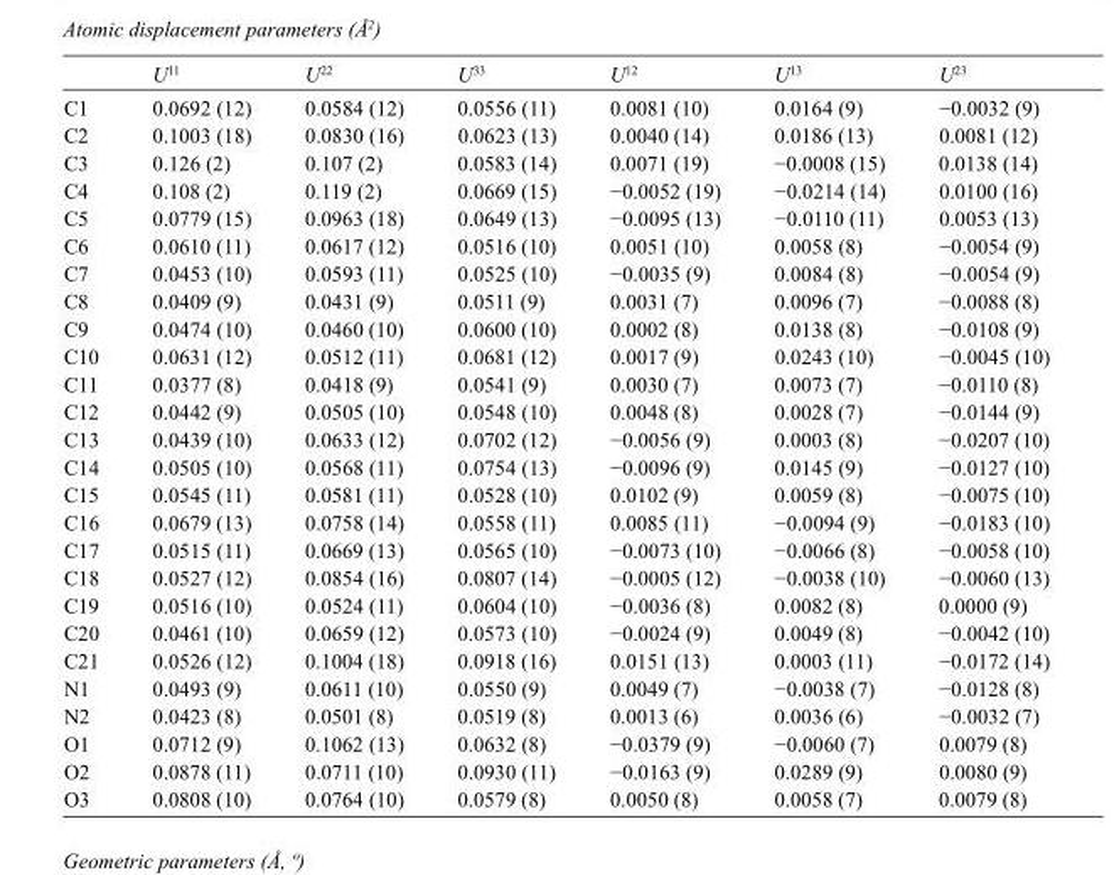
<table><thead><tr><td></td><td>U<sup>11</sup></td><td>U<sup>22</sup></td><td>U<sup>33</sup></td><td>U<sup>12</sup></td><td>U<sup>13</sup></td><td>U<sup>23</sup></td></tr></thead><tbody><tr><td>C1</td><td>0.0692 (12)</td><td>0.0584 (12)</td><td>0.0556 (11)</td><td>0.0081 (10)</td><td>0.0164 (9)</td><td>−0.0032 (9)</td></tr><tr><td>C2</td><td>0.1003 (18)</td><td>0.0830 (16)</td><td>0.0623 (13)</td><td>0.0040 (14)</td><td>0.0186 (13)</td><td>0.0081 (12)</td></tr><tr><td>C3</td><td>0.126 (2)</td><td>0.107 (2)</td><td>0.0583 (14)</td><td>0.0071 (19)</td><td>−0.0008 (15)</td><td>0.0138 (14)</td></tr><tr><td>C4</td><td>0.108 (2)</td><td>0.119 (2)</td><td>0.0669 (15)</td><td>−0.0052 (19)</td><td>−0.0214 (14)</td><td>0.0100 (16)</td></tr><tr><td>C5</td><td>0.0779 (15)</td><td>0.0963 (18)</td><td>0.0649 (13)</td><td>−0.0095 (13)</td><td>−0.0110 (11)</td><td>0.0053 (13)</td></tr><tr><td>C6</td><td>0.0610 (11)</td><td>0.0617 (12)</td><td>0.0516 (10)</td><td>0.0051 (10)</td><td>0.0058 (8)</td><td>−0.0054 (9)</td></tr><tr><td>C7</td><td>0.0453 (10)</td><td>0.0593 (11)</td><td>0.0525 (10)</td><td>−0.0035 (9)</td><td>0.0084 (8)</td><td>−0.0054 (9)</td></tr><tr><td>C8</td><td>0.0409 (9)</td><td>0.0431 (9)</td><td>0.0511 (9)</td><td>0.0031 (7)</td><td>0.0096 (7)</td><td>−0.0088 (8)</td></tr><tr><td>C9</td><td>0.0474 (10)</td><td>0.0460 (10)</td><td>0.0600 (10)</td><td>0.0002 (8)</td><td>0.0138 (8)</td><td>−0.0108 (9)</td></tr><tr><td>C10</td><td>0.0631 (12)</td><td>0.0512 (11)</td><td>0.0681 (12)</td><td>0.0017 (9)</td><td>0.0243 (10)</td><td>−0.0045 (10)</td></tr><tr><td>C11</td><td>0.0377 (8)</td><td>0.0418 (9)</td><td>0.0541 (9)</td><td>0.0030 (7)</td><td>0.0073 (7)</td><td>−0.0110 (8)</td></tr><tr><td>C12</td><td>0.0442 (9)</td><td>0.0505 (10)</td><td>0.0548 (10)</td><td>0.0048 (8)</td><td>0.0028 (7)</td><td>−0.0144 (9)</td></tr><tr><td>C13</td><td>0.0439 (10)</td><td>0.0633 (12)</td><td>0.0702 (12)</td><td>−0.0056 (9)</td><td>0.0003 (8)</td><td>−0.0207 (10)</td></tr><tr><td>C14</td><td>0.0505 (10)</td><td>0.0568 (11)</td><td>0.0754 (13)</td><td>−0.0096 (9)</td><td>0.0145 (9)</td><td>−0.0127 (10)</td></tr><tr><td>C15</td><td>0.0545 (11)</td><td>0.0581 (11)</td><td>0.0528 (10)</td><td>0.0102 (9)</td><td>0.0059 (8)</td><td>−0.0075 (10)</td></tr><tr><td>C16</td><td>0.0679 (13)</td><td>0.0758 (14)</td><td>0.0558 (11)</td><td>0.0085 (11)</td><td>−0.0094 (9)</td><td>−0.0183 (10)</td></tr><tr><td>C17</td><td>0.0515 (11)</td><td>0.0669 (13)</td><td>0.0565 (10)</td><td>−0.0073 (10)</td><td>−0.0066 (8)</td><td>−0.0058 (10)</td></tr><tr><td>C18</td><td>0.0527 (12)</td><td>0.0854 (16)</td><td>0.0807 (14)</td><td>−0.0005 (12)</td><td>−0.0038 (10)</td><td>−0.0060 (13)</td></tr><tr><td>C19</td><td>0.0516 (10)</td><td>0.0524 (11)</td><td>0.0604 (10)</td><td>−0.0036 (8)</td><td>0.0082 (8)</td><td>0.0000 (9)</td></tr><tr><td>C20</td><td>0.0461 (10)</td><td>0.0659 (12)</td><td>0.0573 (10)</td><td>−0.0024 (9)</td><td>0.0049 (8)</td><td>−0.0042 (10)</td></tr><tr><td>C21</td><td>0.0526 (12)</td><td>0.1004 (18)</td><td>0.0918 (16)</td><td>0.0151 (13)</td><td>0.0003 (11)</td><td>−0.0172 (14)</td></tr><tr><td>N1</td><td>0.0493 (9)</td><td>0.0611 (10)</td><td>0.0550 (9)</td><td>0.0049 (7)</td><td>−0.0038 (7)</td><td>−0.0128 (8)</td></tr><tr><td>N2</td><td>0.0423 (8)</td><td>0.0501 (8)</td><td>0.0519 (8)</td><td>0.0013 (6)</td><td>0.0036 (6)</td><td>−0.0032 (7)</td></tr><tr><td>O1</td><td>0.0712 (9)</td><td>0.1062 (13)</td><td>0.0632 (8)</td><td>−0.0379 (9)</td><td>−0.0060 (7)</td><td>0.0079 (8)</td></tr><tr><td>O2</td><td>0.0878 (11)</td><td>0.0711 (10)</td><td>0.0930 (11)</td><td>−0.0163 (9)</td><td>0.0289 (9)</td><td>0.0080 (9)</td></tr><tr><td>O3</td><td>0.0808 (10)</td><td>0.0764 (10)</td><td>0.0579 (8)</td><td>0.0050 (8)</td><td>0.0058 (7)</td><td>0.0079 (8)</td></tr></tbody></table>